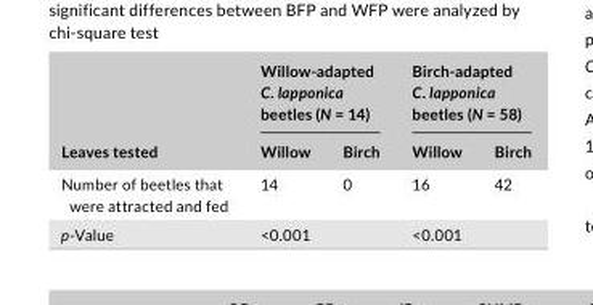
<table><thead><tr><td rowspan="2">Leaves tested</td><td colspan="2">Willow- adapted C. lapponica beetles (N = 14)</td><td colspan="2">Birch- adapted C. lapponica beetles (N = 58)</td></tr><tr><td>Willow</td><td>Birch</td><td>Willow</td><td>Birch</td></tr></thead><tbody><tr><td>Number of beetles that were attracted and fed</td><td>14</td><td>0</td><td>16</td><td>42</td></tr><tr><td>p- Value</td><td colspan="2">&lt;0.001</td><td colspan="2">&lt;0.001</td></tr></tbody></table>